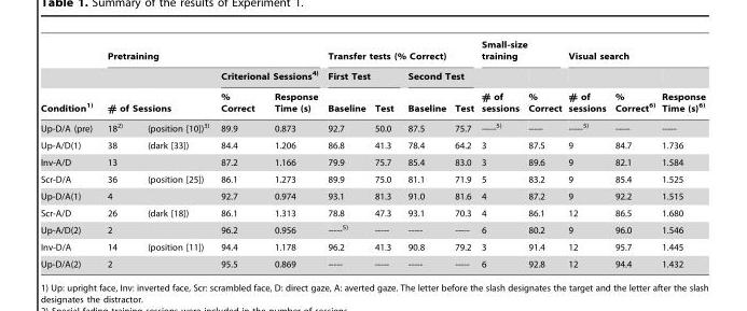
<table><thead><tr><td rowspan="3">Condition<sup>1)</sup></td><td colspan="4">Pretraining</td><td colspan="4">Transfer tests (% Correct)</td><td colspan="2">Small-size training</td><td colspan="3">Visual search</td></tr><tr><td></td><td></td><td colspan="2">Criterional Sessions<sup>4)</sup></td><td colspan="2">First Test</td><td colspan="2">Second Test</td><td rowspan="2"># of sessions</td><td rowspan="2">% Correct</td><td rowspan="2"># of sessions</td><td rowspan="2">% Correct<sup>6)</sup></td><td rowspan="2">Response Time (s)<sup>6)</sup></td></tr><tr><td colspan="2"># of Sessions</td><td>% Correct</td><td>Response Time (s)</td><td>Baseline</td><td>Test</td><td>Baseline</td><td>Test</td></tr></thead><tbody><tr><td>Up-D/A (pre)</td><td>18<sup>2)</sup></td><td>(position [10])<sup>3)</sup></td><td>89.9</td><td>0.873</td><td>92.7</td><td>50.0</td><td>87.5</td><td>75.7</td><td>-----<sup>5)</sup></td><td>-----</td><td>-----<sup>5)</sup></td><td>-----</td><td>-----</td></tr><tr><td>Up-A/D(1)</td><td>38</td><td>(dark [33])</td><td>84.4</td><td>1.206</td><td>86.8</td><td>41.3</td><td>78.4</td><td>64.2</td><td>3</td><td>87.5</td><td>9</td><td>84.7</td><td>1.736</td></tr><tr><td>Inv-A/D</td><td>13</td><td></td><td>87.2</td><td>1.166</td><td>79.9</td><td>75.7</td><td>85.4</td><td>83.0</td><td>3</td><td>89.6</td><td>9</td><td>82.1</td><td>1.584</td></tr><tr><td>Scr-D/A</td><td>36</td><td>(position [25])</td><td>86.1</td><td>1.273</td><td>89.9</td><td>75.0</td><td>81.1</td><td>71.9</td><td>5</td><td>83.2</td><td>9</td><td>85.4</td><td>1.525</td></tr><tr><td>Up-D/A(1)</td><td>4</td><td></td><td>92.7</td><td>0.974</td><td>93.1</td><td>81.3</td><td>91.0</td><td>81.6</td><td>4</td><td>87.2</td><td>9</td><td>92.2</td><td>1.515</td></tr><tr><td>Scr-A/D</td><td>26</td><td>(dark [18])</td><td>86.1</td><td>1.313</td><td>78.8</td><td>47.3</td><td>93.1</td><td>70.3</td><td>4</td><td>86.1</td><td>12</td><td>86.5</td><td>1.680</td></tr><tr><td>Up-A/D(2)</td><td>2</td><td></td><td>96.2</td><td>0.956</td><td>-----<sup>5)</sup></td><td>-----</td><td>-----</td><td>-----</td><td>6</td><td>80.2</td><td>9</td><td>96.0</td><td>1.546</td></tr><tr><td>Inv-D/A</td><td>14</td><td>(position [11])</td><td>94.4</td><td>1.178</td><td>96.2</td><td>41.3</td><td>90.8</td><td>79.2</td><td>3</td><td>91.4</td><td>12</td><td>95.7</td><td>1.445</td></tr><tr><td>Up-D/A(2)</td><td>2</td><td></td><td>95.5</td><td>0.869</td><td>-----</td><td>-----</td><td>-----</td><td>-----</td><td>6</td><td>92.8</td><td>12</td><td>94.4</td><td>1.432</td></tr></tbody></table>